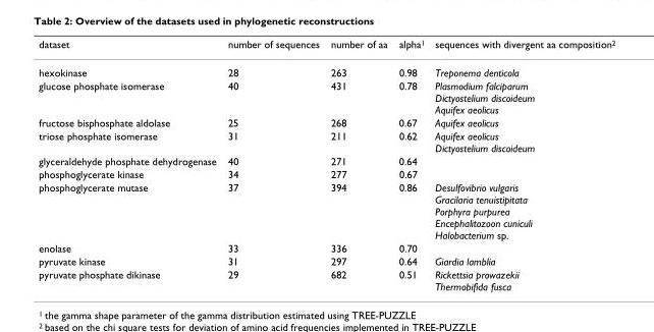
<table><thead><tr><td>dataset</td><td>number of sequences</td><td>number of aa</td><td>alpha<sup>1</sup></td><td>sequences with divergent aa composition<sup>2</sup></td></tr></thead><tbody><tr><td>hexokinase</td><td>28</td><td>263</td><td>0.98</td><td>Treponema denticola</td></tr><tr><td>glucose phosphate isomerase</td><td>40</td><td>431</td><td>0.78</td><td>Plasmodium falciparum Dictyostelium discoideum Aquifex aeolicus</td></tr><tr><td>fructose bisphosphate aldolase</td><td>25</td><td>268</td><td>0.67</td><td>Aquifex aeolicus</td></tr><tr><td>triose phosphate isomerase</td><td>31</td><td>211</td><td>0.62</td><td>Aquifex aeolicus Dictyostelium discoideum</td></tr><tr><td>glyceraldehyde phosphate dehydrogenase</td><td>40</td><td>271</td><td>0.64</td><td></td></tr><tr><td>phosphoglycerate kinase</td><td>34</td><td>277</td><td>0.67</td><td></td></tr><tr><td>phosphoglycerate mutase</td><td>37</td><td>394</td><td>0.86</td><td>Desulfovibrio vulgaris Gracilaria tenuistipitata Porphyra purpurea Encephalitozoon cuniculi Halobacterium sp.</td></tr><tr><td>enolase</td><td>33</td><td>336</td><td>0.70</td><td></td></tr><tr><td>pyruvate kinase</td><td>31</td><td>297</td><td>0.64</td><td>Giardia lamblia</td></tr><tr><td>pyruvate phosphate dikinase</td><td>29</td><td>682</td><td>0.51</td><td>Rickettsia prowazekii Thermobifida fusca</td></tr></tbody></table>